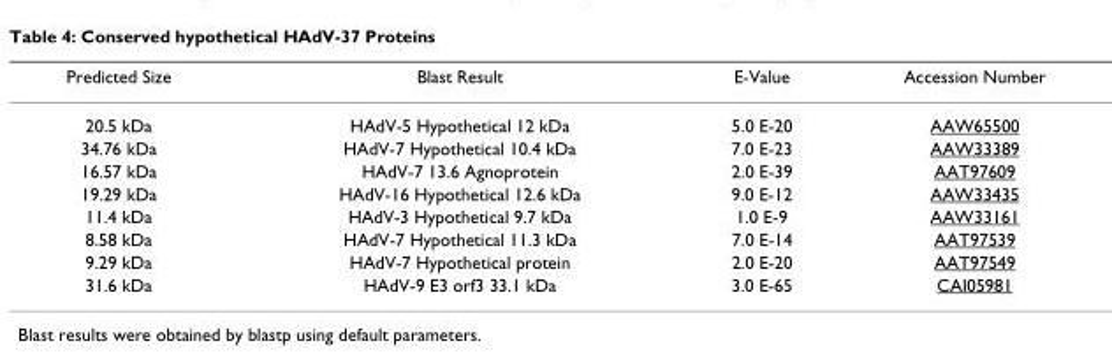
<table><thead><tr><td>Predicted Size</td><td>Blast Result</td><td>E-Value</td><td>Accession Number</td></tr></thead><tbody><tr><td>20.5 kDa</td><td>HAdV-5 Hypothetical 12 kDa</td><td>5.0 E-20</td><td>AAW65500</td></tr><tr><td>34.76 kDa</td><td>HAdV-7 Hypothetical 10.4 kDa</td><td>7.0 E-23</td><td>AAW33389</td></tr><tr><td>16.57 kDa</td><td>HAdV-7 13.6 Agnoprotein</td><td>2.0 E-39</td><td>AAT97609</td></tr><tr><td>19.29 kDa</td><td>HAdV-16 Hypothetical 12.6 kDa</td><td>9.0 E-12</td><td>AAW33435</td></tr><tr><td>11.4 kDa</td><td>HAdV-3 Hypothetical 9.7 kDa</td><td>1.0 E-9</td><td>AAW33161</td></tr><tr><td>8.58 kDa</td><td>HAdV-7 Hypothetical 11.3 kDa</td><td>7.0 E-14</td><td>AAT97539</td></tr><tr><td>9.29 kDa</td><td>HAdV-7 Hypothetical protein</td><td>2.0 E-20</td><td>AAT97549</td></tr><tr><td>31.6 kDa</td><td>HAdV-9 E3 orf3 33.1 kDa</td><td>3.0 E-65</td><td>CAI05981</td></tr></tbody></table>